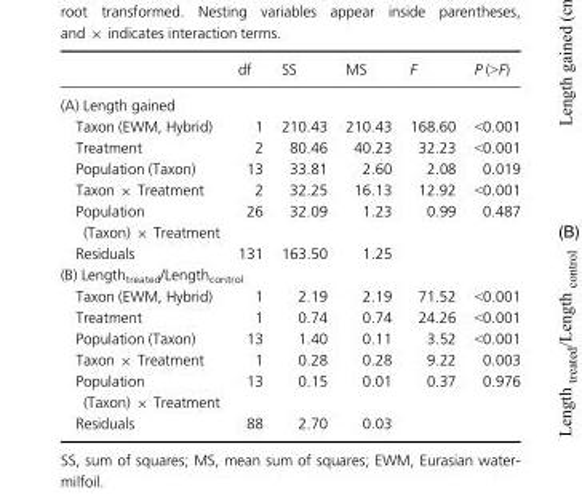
<table><thead><tr><td></td><td>df</td><td>SS</td><td>MS</td><td>F</td><td>P (&gt;F)</td></tr></thead><tbody><tr><td colspan="6">(A) Length gained</td></tr><tr><td>Taxon (EWM, Hybrid)</td><td>1</td><td>210.43</td><td>210.43</td><td>168.60</td><td>&lt;0.001</td></tr><tr><td>Treatment</td><td>2</td><td>80.46</td><td>40.23</td><td>32.23</td><td>&lt;0.001</td></tr><tr><td>Population (Taxon)</td><td>13</td><td>33.81</td><td>2.60</td><td>2.08</td><td>0.019</td></tr><tr><td>Taxon × Treatment</td><td>2</td><td>32.25</td><td>16.13</td><td>12.92</td><td>&lt;0.001</td></tr><tr><td>Population (Taxon) × Treatment</td><td>26</td><td>32.09</td><td>1.23</td><td>0.99</td><td>0.487</td></tr><tr><td>Residuals</td><td>131</td><td>163.50</td><td>1.25</td><td></td><td></td></tr><tr><td colspan="6">(B) Length<sub>treated</sub>/Length<sub>control</sub></td></tr><tr><td>Taxon (EWM, Hybrid)</td><td>1</td><td>2.19</td><td>2.19</td><td>71.52</td><td>&lt;0.001</td></tr><tr><td>Treatment</td><td>1</td><td>0.74</td><td>0.74</td><td>24.26</td><td>&lt;0.001</td></tr><tr><td>Population (Taxon)</td><td>13</td><td>1.40</td><td>0.11</td><td>3.52</td><td>&lt;0.001</td></tr><tr><td>Taxon × Treatment</td><td>1</td><td>0.28</td><td>0.28</td><td>9.22</td><td>0.003</td></tr><tr><td>Population (Taxon) × Treatment</td><td>13</td><td>0.15</td><td>0.01</td><td>0.37</td><td>0.976</td></tr><tr><td>Residuals</td><td>88</td><td>2.70</td><td>0.03</td><td></td><td></td></tr></tbody></table>